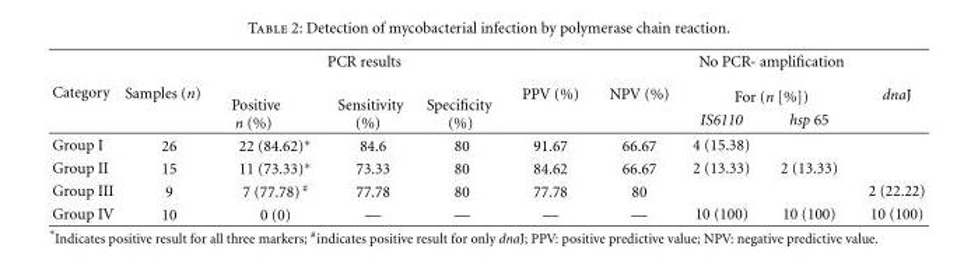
<table><thead><tr><td rowspan="3">Category</td><td rowspan="3">Samples (n)</td><td colspan="3">PCR results</td><td rowspan="3">PPV (%)</td><td rowspan="3">NPV (%)</td><td rowspan="2" colspan="2">No PCR- amplification For (n [%])</td><td rowspan="3">dnaJ</td></tr><tr><td rowspan="2">Positive n (%)</td><td rowspan="2">Sensitivity (%)</td><td rowspan="2">Specificity (%)</td></tr><tr><td>IS6110</td><td>hsp 65</td></tr></thead><tbody><tr><td>Group I</td><td>26</td><td>22 (84.62)∗</td><td>84.6</td><td>80</td><td>91.67</td><td>66.67</td><td>4 (15.38)</td><td></td><td></td></tr><tr><td>Group II</td><td>15</td><td>11 (73.33)∗</td><td>73.33</td><td>80</td><td>84.62</td><td>66.67</td><td>2 (13.33)</td><td>2 (13.33)</td><td></td></tr><tr><td>Group III</td><td>9</td><td>7 (77.78) <sup>#</sup></td><td>77.78</td><td>80</td><td>77.78</td><td>80</td><td></td><td></td><td>2 (22.22)</td></tr><tr><td>Group IV</td><td>10</td><td>0 (0)</td><td>—</td><td>—</td><td>—</td><td>—</td><td>10 (100)</td><td>10 (100)</td><td>10 (100)</td></tr></tbody></table>